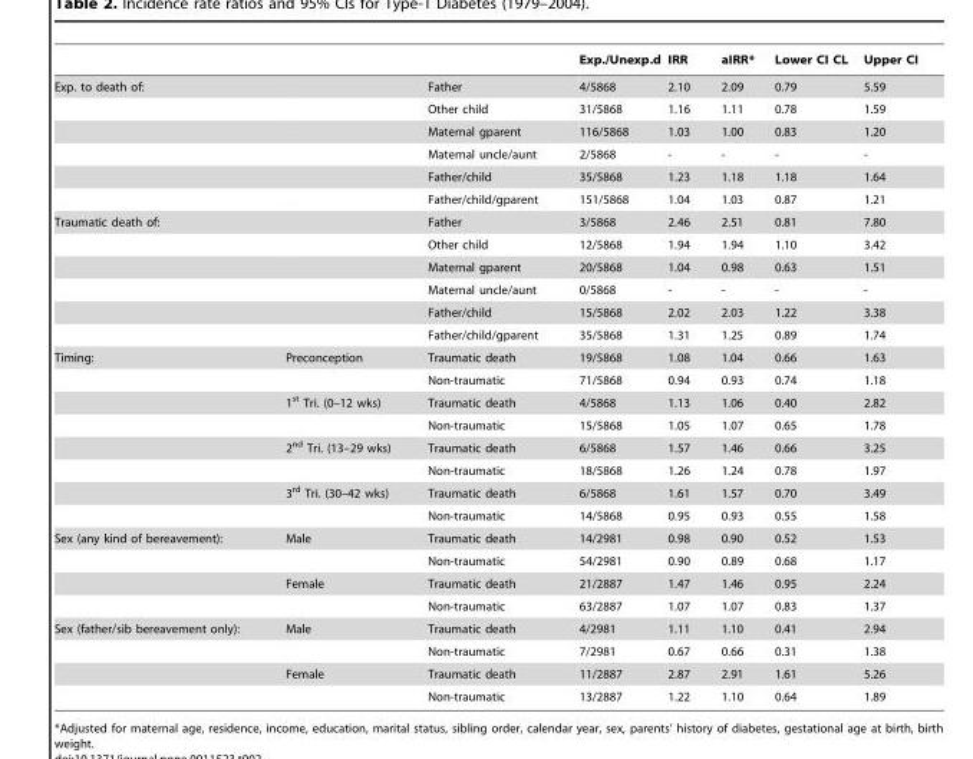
<table><thead><tr><td></td><td></td><td></td><td>Exp./Unexp.d</td><td>IRR</td><td>aIRR*</td><td>Lower CI CL</td><td>Upper CI</td></tr></thead><tbody><tr><td rowspan="6">Exp. to death of:</td><td></td><td>Father</td><td>4/5868</td><td>2.10</td><td>2.09</td><td>0.79</td><td>5.59</td></tr><tr><td></td><td>Other child</td><td>31/5868</td><td>1.16</td><td>1.11</td><td>0.78</td><td>1.59</td></tr><tr><td></td><td>Maternal gparent</td><td>116/5868</td><td>1.03</td><td>1.00</td><td>0.83</td><td>1.20</td></tr><tr><td></td><td>Maternal uncle/aunt</td><td>2/5868</td><td>-</td><td>-</td><td>-</td><td>-</td></tr><tr><td></td><td>Father/child</td><td>35/5868</td><td>1.23</td><td>1.18</td><td>1.18</td><td>1.64</td></tr><tr><td></td><td>Father/child/gparent</td><td>151/5868</td><td>1.04</td><td>1.03</td><td>0.87</td><td>1.21</td></tr><tr><td rowspan="6">Traumatic death of:</td><td></td><td>Father</td><td>3/5868</td><td>2.46</td><td>2.51</td><td>0.81</td><td>7.80</td></tr><tr><td></td><td>Other child</td><td>12/5868</td><td>1.94</td><td>1.94</td><td>1.10</td><td>3.42</td></tr><tr><td></td><td>Maternal gparent</td><td>20/5868</td><td>1.04</td><td>0.98</td><td>0.63</td><td>1.51</td></tr><tr><td></td><td>Maternal uncle/aunt</td><td>0/5868</td><td>-</td><td>-</td><td>-</td><td>-</td></tr><tr><td></td><td>Father/child</td><td>15/5868</td><td>2.02</td><td>2.03</td><td>1.22</td><td>3.38</td></tr><tr><td></td><td>Father/child/gparent</td><td>35/5868</td><td>1.31</td><td>1.25</td><td>0.89</td><td>1.74</td></tr><tr><td rowspan="8">Timing:</td><td>Preconception</td><td>Traumatic death</td><td>19/5868</td><td>1.08</td><td>1.04</td><td>0.66</td><td>1.63</td></tr><tr><td></td><td>Non-traumatic</td><td>71/5868</td><td>0.94</td><td>0.93</td><td>0.74</td><td>1.18</td></tr><tr><td>1<sup>st</sup> Tri. (0–12 wks)</td><td>Traumatic death</td><td>4/5868</td><td>1.13</td><td>1.06</td><td>0.40</td><td>2.82</td></tr><tr><td></td><td>Non-traumatic</td><td>15/5868</td><td>1.05</td><td>1.07</td><td>0.65</td><td>1.78</td></tr><tr><td>2<sup>nd</sup> Tri. (13–29 wks)</td><td>Traumatic death</td><td>6/5868</td><td>1.57</td><td>1.46</td><td>0.66</td><td>3.25</td></tr><tr><td></td><td>Non-traumatic</td><td>18/5868</td><td>1.26</td><td>1.24</td><td>0.78</td><td>1.97</td></tr><tr><td>3<sup>rd</sup> Tri. (30–42 wks)</td><td>Traumatic death</td><td>6/5868</td><td>1.61</td><td>1.57</td><td>0.70</td><td>3.49</td></tr><tr><td></td><td>Non-traumatic</td><td>14/5868</td><td>0.95</td><td>0.93</td><td>0.55</td><td>1.58</td></tr><tr><td rowspan="4">Sex (any kind of bereavement):</td><td>Male</td><td>Traumatic death</td><td>14/2981</td><td>0.98</td><td>0.90</td><td>0.52</td><td>1.53</td></tr><tr><td></td><td>Non-traumatic</td><td>54/2981</td><td>0.90</td><td>0.89</td><td>0.68</td><td>1.17</td></tr><tr><td>Female</td><td>Traumatic death</td><td>21/2887</td><td>1.47</td><td>1.46</td><td>0.95</td><td>2.24</td></tr><tr><td></td><td>Non-traumatic</td><td>63/2887</td><td>1.07</td><td>1.07</td><td>0.83</td><td>1.37</td></tr><tr><td rowspan="4">Sex (father/sib bereavement only):</td><td>Male</td><td>Traumatic death</td><td>4/2981</td><td>1.11</td><td>1.10</td><td>0.41</td><td>2.94</td></tr><tr><td></td><td>Non-traumatic</td><td>7/2981</td><td>0.67</td><td>0.66</td><td>0.31</td><td>1.38</td></tr><tr><td>Female</td><td>Traumatic death</td><td>11/2887</td><td>2.87</td><td>2.91</td><td>1.61</td><td>5.26</td></tr><tr><td></td><td>Non-traumatic</td><td>13/2887</td><td>1.22</td><td>1.10</td><td>0.64</td><td>1.89</td></tr></tbody></table>